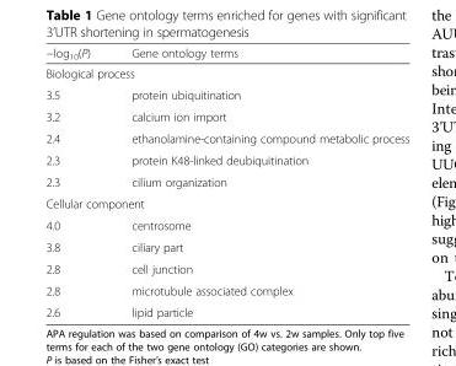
<table><thead><tr><td>−log<sub>10</sub>(P)</td><td>Gene ontology terms</td></tr></thead><tbody><tr><td colspan="2">Biological process</td></tr><tr><td>3.5</td><td>protein ubiquitination</td></tr><tr><td>3.2</td><td>calcium ion import</td></tr><tr><td>2.4</td><td>ethanolamine-containing compound metabolic process</td></tr><tr><td>2.3</td><td>protein K48-linked deubiquitination</td></tr><tr><td>2.3</td><td>cilium organization</td></tr><tr><td colspan="2">Cellular component</td></tr><tr><td>4.0</td><td>centrosome</td></tr><tr><td>3.8</td><td>ciliary part</td></tr><tr><td>2.8</td><td>cell junction</td></tr><tr><td>2.8</td><td>microtubule associated complex</td></tr><tr><td>2.6</td><td>lipid particle</td></tr></tbody></table>